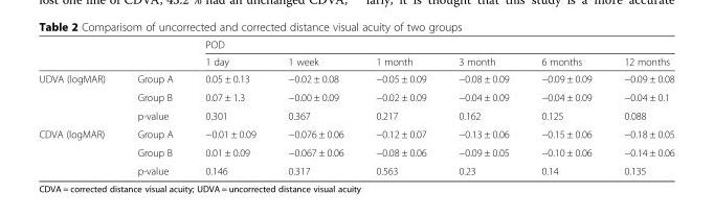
<table><thead><tr><td rowspan="2"></td><td rowspan="2"></td><td colspan="6">POD</td></tr><tr><td>1 day</td><td>1 week</td><td>1 month</td><td>3 month</td><td>6 months</td><td>12 months</td></tr></thead><tbody><tr><td rowspan="3">UDVA (logMAR)</td><td>Group A</td><td>0.05 ± 0.13</td><td>−0.02 ± 0.08</td><td>−0.05 ± 0.09</td><td>−0.08 ± 0.09</td><td>−0.09 ± 0.09</td><td>−0.09 ± 0.08</td></tr><tr><td>Group B</td><td>0.07 ± 1.3</td><td>−0.00 ± 0.09</td><td>−0.02 ± 0.09</td><td>−0.04 ± 0.09</td><td>−0.04 ± 0.09</td><td>−0.04 ± 0.1</td></tr><tr><td>p-value</td><td>0.301</td><td>0.367</td><td>0.217</td><td>0.162</td><td>0.125</td><td>0.088</td></tr><tr><td rowspan="3">CDVA (logMAR)</td><td>Group A</td><td>−0.01 ± 0.09</td><td>−0.076 ± 0.06</td><td>−0.12 ± 0.07</td><td>−0.13 ± 0.06</td><td>−0.15 ± 0.06</td><td>−0.18 ± 0.05</td></tr><tr><td>Group B</td><td>0.01 ± 0.09</td><td>−0.067 ± 0.06</td><td>−0.08 ± 0.06</td><td>−0.09 ± 0.05</td><td>−0.10 ± 0.06</td><td>−0.14 ± 0.06</td></tr><tr><td>p-value</td><td>0.146</td><td>0.317</td><td>0.563</td><td>0.23</td><td>0.14</td><td>0.135</td></tr></tbody></table>